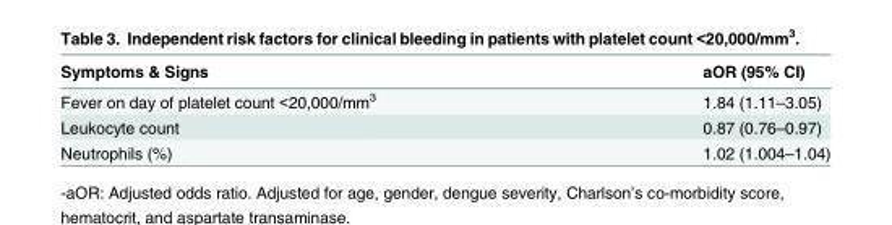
<table><thead><tr><td>Symptoms &amp; Signs</td><td>aOR (95% CI)</td></tr></thead><tbody><tr><td>Fever on day of platelet count &lt;20,000/mm<sup>3</sup></td><td>1.84 (1.11–3.05)</td></tr><tr><td>Leukocyte count</td><td>0.87 (0.76–0.97)</td></tr><tr><td>Neutrophils (%)</td><td>1.02 (1.004–1.04)</td></tr></tbody></table>